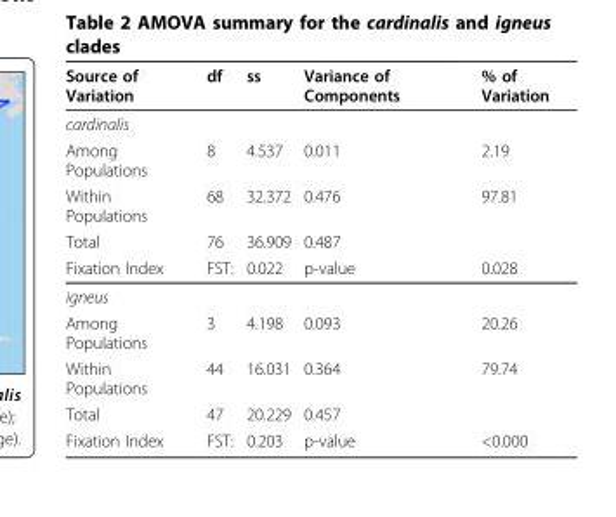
<table><thead><tr><td>Source of Variation</td><td>df</td><td>ss</td><td>Variance of Components</td><td>% of Variation</td></tr></thead><tbody><tr><td colspan="5">cardinalis</td></tr><tr><td>Among Populations</td><td>8</td><td>4.537</td><td>0.011</td><td>2.19</td></tr><tr><td>Within Populations</td><td>68</td><td>32.372</td><td>0.476</td><td>97.81</td></tr><tr><td>Total</td><td>76</td><td>36.909</td><td>0.487</td><td></td></tr><tr><td>Fixation Index</td><td>FST:</td><td>0.022</td><td>p-value</td><td>0.028</td></tr><tr><td colspan="5">igneus</td></tr><tr><td>Among Populations</td><td>3</td><td>4.198</td><td>0.093</td><td>20.26</td></tr><tr><td>Within Populations</td><td>44</td><td>16.031</td><td>0.364</td><td>79.74</td></tr><tr><td>Total</td><td>47</td><td>20.229</td><td>0.457</td><td></td></tr><tr><td>Fixation Index</td><td>FST:</td><td>0.203</td><td>p-value</td><td>&lt;0.000</td></tr></tbody></table>